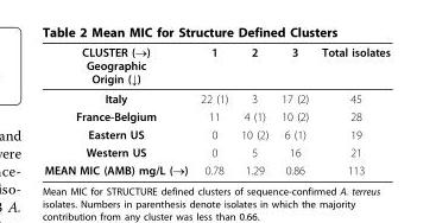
<table><thead><tr><td>CLUSTER (→) Geographic Origin (↓)</td><td>1</td><td>2</td><td>3</td><td>Total isolates</td></tr></thead><tbody><tr><td>Italy</td><td>22 (1)</td><td>3</td><td>17 (2)</td><td>45</td></tr><tr><td>France-Belgium</td><td>11</td><td>4 (1)</td><td>10 (2)</td><td>28</td></tr><tr><td>Eastern US</td><td>0</td><td>10 (2)</td><td>6 (1)</td><td>19</td></tr><tr><td>Western US</td><td>0</td><td>5</td><td>16</td><td>21</td></tr><tr><td>MEAN MIC (AMB) mg/L (→)</td><td>0.78</td><td>1.29</td><td>0.86</td><td>113</td></tr></tbody></table>